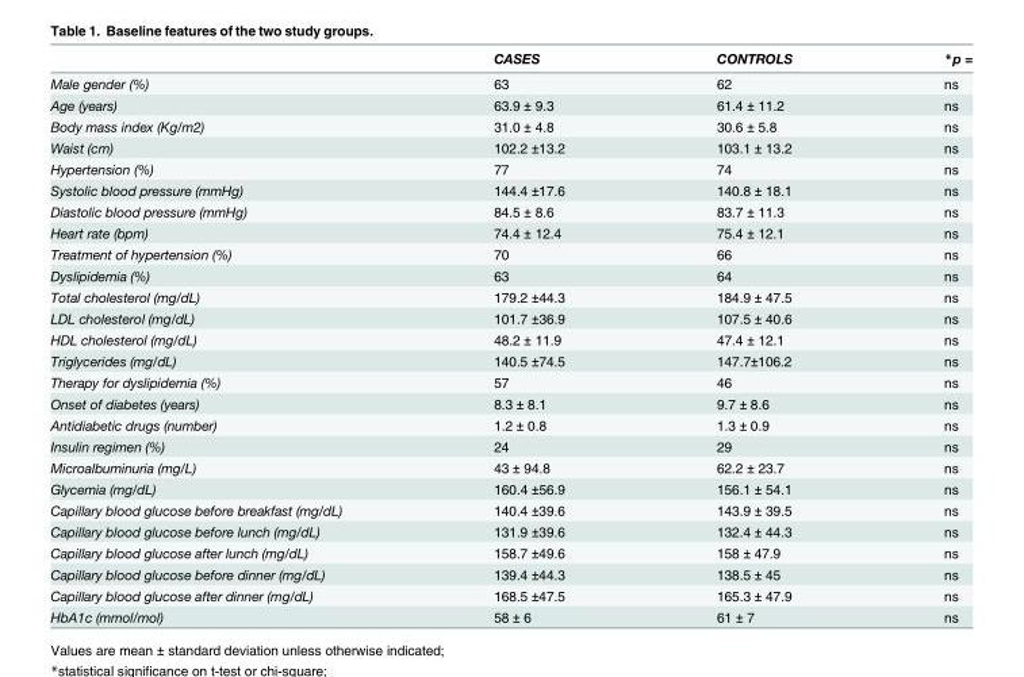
<table><thead><tr><td></td><td>CASES</td><td>CONTROLS</td><td>*p =</td></tr></thead><tbody><tr><td>Male gender (%)</td><td>63</td><td>62</td><td>ns</td></tr><tr><td>Age (years)</td><td>63.9 ± 9.3</td><td>61.4 ± 11.2</td><td>ns</td></tr><tr><td>Body mass index (Kg/m2)</td><td>31.0 ± 4.8</td><td>30.6 ± 5.8</td><td>ns</td></tr><tr><td>Waist (cm)</td><td>102.2 ±13.2</td><td>103.1 ± 13.2</td><td>ns</td></tr><tr><td>Hypertension (%)</td><td>77</td><td>74</td><td>ns</td></tr><tr><td>Systolic blood pressure (mmHg)</td><td>144.4 ±17.6</td><td>140.8 ± 18.1</td><td>ns</td></tr><tr><td>Diastolic blood pressure (mmHg)</td><td>84.5 ± 8.6</td><td>83.7 ± 11.3</td><td>ns</td></tr><tr><td>Heart rate (bpm)</td><td>74.4 ± 12.4</td><td>75.4 ± 12.1</td><td>ns</td></tr><tr><td>Treatment of hypertension (%)</td><td>70</td><td>66</td><td>ns</td></tr><tr><td>Dyslipidemia (%)</td><td>63</td><td>64</td><td>ns</td></tr><tr><td>Total cholesterol (mg/dL)</td><td>179.2 ±44.3</td><td>184.9 ± 47.5</td><td>ns</td></tr><tr><td>LDL cholesterol (mg/dL)</td><td>101.7 ±36.9</td><td>107.5 ± 40.6</td><td>ns</td></tr><tr><td>HDL cholesterol (mg/dL)</td><td>48.2 ± 11.9</td><td>47.4 ± 12.1</td><td>ns</td></tr><tr><td>Triglycerides (mg/dL)</td><td>140.5 ±74.5</td><td>147.7±106.2</td><td>ns</td></tr><tr><td>Therapy for dyslipidemia (%)</td><td>57</td><td>46</td><td>ns</td></tr><tr><td>Onset of diabetes (years)</td><td>8.3 ± 8.1</td><td>9.7 ± 8.6</td><td>ns</td></tr><tr><td>Antidiabetic drugs (number)</td><td>1.2 ± 0.8</td><td>1.3 ± 0.9</td><td>ns</td></tr><tr><td>Insulin regimen (%)</td><td>24</td><td>29</td><td>ns</td></tr><tr><td>Microalbuminuria (mg/L)</td><td>43 ± 94.8</td><td>62.2 ± 23.7</td><td>ns</td></tr><tr><td>Glycemia (mg/dL)</td><td>160.4 ±56.9</td><td>156.1 ± 54.1</td><td>ns</td></tr><tr><td>Capillary blood glucose before breakfast (mg/dL)</td><td>140.4 ±39.6</td><td>143.9 ± 39.5</td><td>ns</td></tr><tr><td>Capillary blood glucose before lunch (mg/dL)</td><td>131.9 ±39.6</td><td>132.4 ± 44.3</td><td>ns</td></tr><tr><td>Capillary blood glucose after lunch (mg/dL)</td><td>158.7 ±49.6</td><td>158 ± 47.9</td><td>ns</td></tr><tr><td>Capillary blood glucose before dinner (mg/dL)</td><td>139.4 ±44.3</td><td>138.5 ± 45</td><td>ns</td></tr><tr><td>Capillary blood glucose after dinner (mg/dL)</td><td>168.5 ±47.5</td><td>165.3 ± 47.9</td><td>ns</td></tr><tr><td>HbA1c (mmol/mol)</td><td>58 ± 6</td><td>61 ± 7</td><td>ns</td></tr></tbody></table>